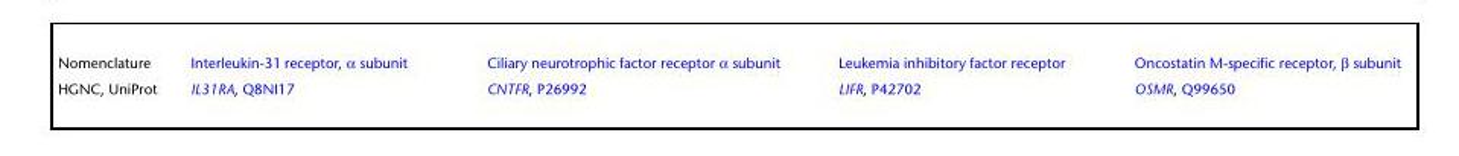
<table><tbody><tr><td>Nomenclature</td><td>Interleukin-31 receptor, α subunit</td><td>Ciliary neurotrophic factor receptor α subunit</td><td>Leukemia inhibitory factor receptor</td><td>Oncostatin M-specific receptor, β subunit</td></tr><tr><td>HGNC, UniProt</td><td>IL31RA, Q8NI17</td><td>CNTFR, P26992</td><td>LIFR, P42702</td><td>OSMR, Q99650</td></tr></tbody></table>